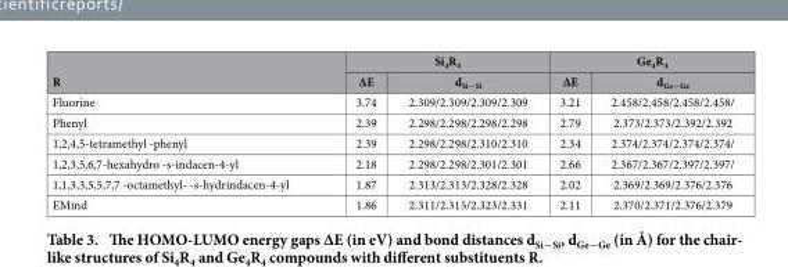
<table><thead><tr><td rowspan="2">R</td><td colspan="2">Si<sub>4</sub>R<sub>4</sub></td><td colspan="2">Ge<sub>4</sub>R<sub>4</sub></td></tr><tr><td>ΔE</td><td>d<sub>Si−Si</sub></td><td>ΔE</td><td>d<sub>Ge−Ge</sub></td></tr></thead><tbody><tr><td>Fluorine</td><td>3.74</td><td>2.309/2.309/2.309/2.309</td><td>3.21</td><td>2.458/2.458/2.458/2.458/</td></tr><tr><td>Phenyl</td><td>2.39</td><td>2.298/2.298/2.298/2.298</td><td>2.79</td><td>2.373/2.373/2.392/2.392</td></tr><tr><td>1,2,4,5-tetramethyl -phenyl</td><td>2.39</td><td>2.298/2.298/2.310/2.310</td><td>2.34</td><td>2.374/2.374/2.374/2.374/</td></tr><tr><td>1,2,3,5,6,7-hexahydro -s-indacen-4-yl</td><td>2.18</td><td>2.298/2.298/2.301/2.301</td><td>2.66</td><td>2.367/2.367/2.397/2.397/</td></tr><tr><td>1,1,3,3,5,5,7,7 -octamethyl- -s-hydrindacen-4-yl</td><td>1.87</td><td>2.313/2.313/2.328/2.328</td><td>2.02</td><td>2.369/2.369/2.376/2.376</td></tr><tr><td>EMind</td><td>1.86</td><td>2.311/2.315/2.323/2.331</td><td>2.11</td><td>2.370/2.371/2.376/2.379</td></tr></tbody></table>